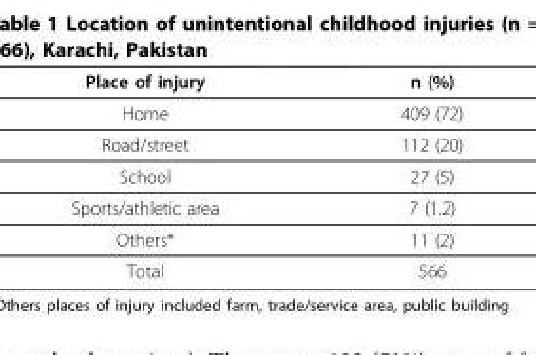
<table><thead><tr><td>Place of injury</td><td>n (%)</td></tr></thead><tbody><tr><td>Home</td><td>409 (72)</td></tr><tr><td>Road/street</td><td>112 (20)</td></tr><tr><td>School</td><td>27 (5)</td></tr><tr><td>Sports/athletic area</td><td>7 (1.2)</td></tr><tr><td>Others*</td><td>11 (2)</td></tr><tr><td>Total</td><td>566</td></tr></tbody></table>